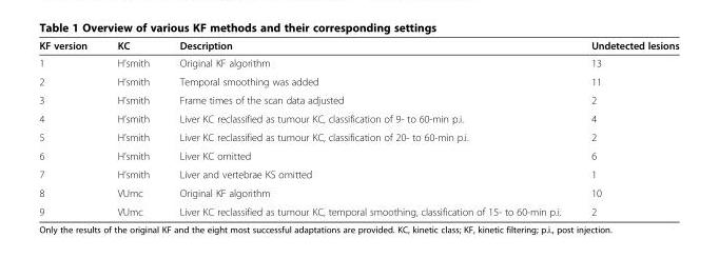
<table><thead><tr><td>KF version</td><td>KC</td><td>Description</td><td>Undetected lesions</td></tr></thead><tbody><tr><td>1</td><td>H’smith</td><td>Original KF algorithm</td><td>13</td></tr><tr><td>2</td><td>H’smith</td><td>Temporal smoothing was added</td><td>11</td></tr><tr><td>3</td><td>H’smith</td><td>Frame times of the scan data adjusted</td><td>2</td></tr><tr><td>4</td><td>H’smith</td><td>Liver KC reclassified as tumour KC, classification of 9- to 60-min p.i.</td><td>4</td></tr><tr><td>5</td><td>H’smith</td><td>Liver KC reclassified as tumour KC, classification of 20- to 60-min p.i.</td><td>2</td></tr><tr><td>6</td><td>H’smith</td><td>Liver KC omitted</td><td>6</td></tr><tr><td>7</td><td>H’smith</td><td>Liver and vertebrae KS omitted</td><td>1</td></tr><tr><td>8</td><td>VUmc</td><td>Original KF algorithm</td><td>10</td></tr><tr><td>9</td><td>VUmc</td><td>Liver KC reclassified as tumour KC, temporal smoothing, classification of 15- to 60-min p.i.</td><td>2</td></tr></tbody></table>